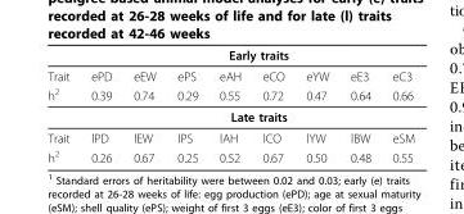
<table><thead><tr><td rowspan="2">Trait</td><td colspan="8">Early traits</td></tr><tr><td>ePD</td><td>eEW</td><td>ePS</td><td>eAH</td><td>eCO</td><td>eYW</td><td>eE3</td><td>eC3</td></tr></thead><tbody><tr><td rowspan="2">h<sup>2</sup></td><td>0.39</td><td>0.74</td><td>0.29</td><td>0.55</td><td>0.72</td><td>0.47</td><td>0.64</td><td>0.66</td></tr><tr><td colspan="8">Late traits</td></tr><tr><td>Trait</td><td>lPD</td><td>lEW</td><td>lPS</td><td>lAH</td><td>lCO</td><td>lYW</td><td>lBW</td><td>eSM</td></tr><tr><td>h<sup>2</sup></td><td>0.26</td><td>0.67</td><td>0.25</td><td>0.52</td><td>0.67</td><td>0.50</td><td>0.48</td><td>0.55</td></tr></tbody></table>